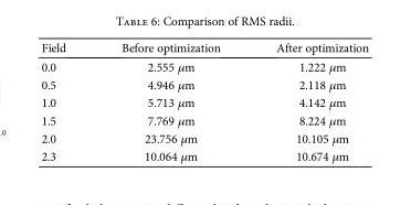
<table><thead><tr><td>Field</td><td>Before optimization</td><td>After optimization</td></tr></thead><tbody><tr><td>0.0</td><td>2.555 μm</td><td>1.222 μm</td></tr><tr><td>0.5</td><td>4.946 μm</td><td>2.118 μm</td></tr><tr><td>1.0</td><td>5.713 μm</td><td>4.142 μm</td></tr><tr><td>1.5</td><td>7.769 μm</td><td>8.224 μm</td></tr><tr><td>2.0</td><td>23.756 μm</td><td>10.105 μm</td></tr><tr><td>2.3</td><td>10.064 μm</td><td>10.674 μm</td></tr></tbody></table>